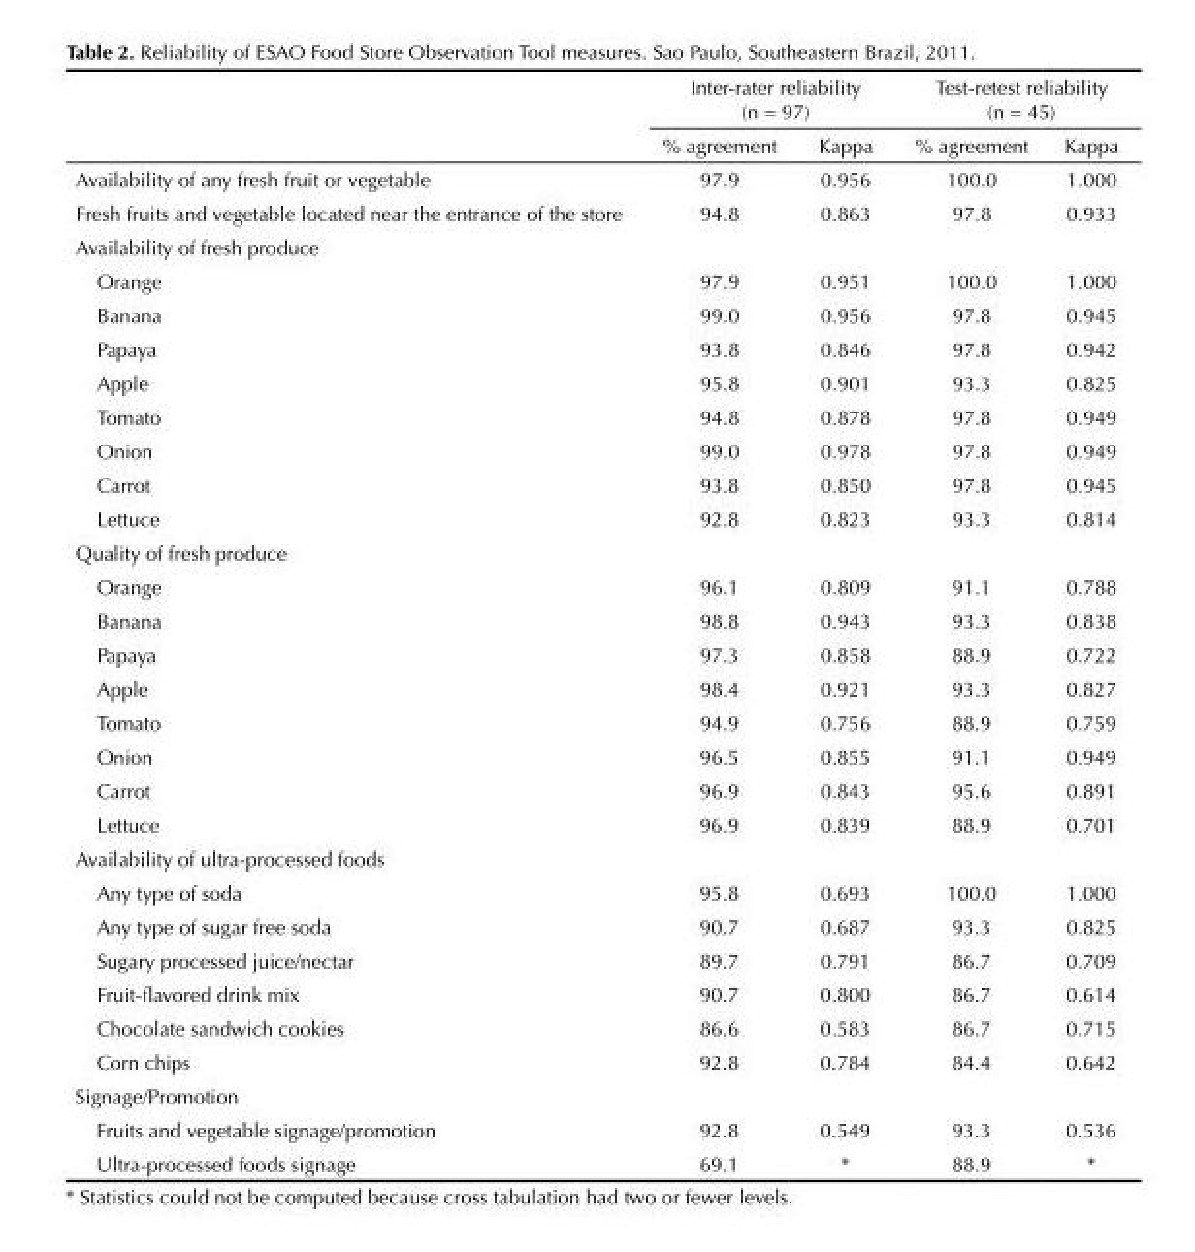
<table><thead><tr><td rowspan="2"></td><td colspan="2">Inter-rater reliability (n = 97)</td><td colspan="2">Test-retest reliability (n = 45)</td></tr><tr><td>% agreement</td><td>Kappa</td><td>% agreement</td><td>Kappa</td></tr></thead><tbody><tr><td>Availability of any fresh fruit or vegetable</td><td>97.9</td><td>0.956</td><td>100.0</td><td>1.000</td></tr><tr><td>Fresh fruits and vegetable located near the entrance of the store</td><td>94.8</td><td>0.863</td><td>97.8</td><td>0.933</td></tr><tr><td colspan="5">Availability of fresh produce</td></tr><tr><td>Orange</td><td>97.9</td><td>0.951</td><td>100.0</td><td>1.000</td></tr><tr><td>Banana</td><td>99.0</td><td>0.956</td><td>97.8</td><td>0.945</td></tr><tr><td>Papaya</td><td>93.8</td><td>0.846</td><td>97.8</td><td>0.942</td></tr><tr><td>Apple</td><td>95.8</td><td>0.901</td><td>93.3</td><td>0.825</td></tr><tr><td>Tomato</td><td>94.8</td><td>0.878</td><td>97.8</td><td>0.949</td></tr><tr><td>Onion</td><td>99.0</td><td>0.978</td><td>97.8</td><td>0.949</td></tr><tr><td>Carrot</td><td>93.8</td><td>0.850</td><td>97.8</td><td>0.945</td></tr><tr><td>Lettuce</td><td>92.8</td><td>0.823</td><td>93.3</td><td>0.814</td></tr><tr><td colspan="5">Quality of fresh produce</td></tr><tr><td>Orange</td><td>96.1</td><td>0.809</td><td>91.1</td><td>0.788</td></tr><tr><td>Banana</td><td>98.8</td><td>0.943</td><td>93.3</td><td>0.838</td></tr><tr><td>Papaya</td><td>97.3</td><td>0.858</td><td>88.9</td><td>0.722</td></tr><tr><td>Apple</td><td>98.4</td><td>0.921</td><td>93.3</td><td>0.827</td></tr><tr><td>Tomato</td><td>94.9</td><td>0.756</td><td>88.9</td><td>0.759</td></tr><tr><td>Onion</td><td>96.5</td><td>0.855</td><td>91.1</td><td>0.949</td></tr><tr><td>Carrot</td><td>96.9</td><td>0.843</td><td>95.6</td><td>0.891</td></tr><tr><td>Lettuce</td><td>96.9</td><td>0.839</td><td>88.9</td><td>0.701</td></tr><tr><td colspan="5">Availability of ultra-processed foods</td></tr><tr><td>Any type of soda</td><td>95.8</td><td>0.693</td><td>100.0</td><td>1.000</td></tr><tr><td>Any type of sugar free soda</td><td>90.7</td><td>0.687</td><td>93.3</td><td>0.825</td></tr><tr><td>Sugary processed juice/nectar</td><td>89.7</td><td>0.791</td><td>86.7</td><td>0.709</td></tr><tr><td>Fruit-flavored drink mix</td><td>90.7</td><td>0.800</td><td>86.7</td><td>0.614</td></tr><tr><td>Chocolate sandwich cookies</td><td>86.6</td><td>0.583</td><td>86.7</td><td>0.715</td></tr><tr><td>Corn chips</td><td>92.8</td><td>0.784</td><td>84.4</td><td>0.642</td></tr><tr><td colspan="5">Signage/Promotion</td></tr><tr><td>Fruits and vegetable signage/promotion</td><td>92.8</td><td>0.549</td><td>93.3</td><td>0.536</td></tr><tr><td>Ultra-processed foods signage</td><td>69.1</td><td>*</td><td>88.9</td><td>*</td></tr></tbody></table>